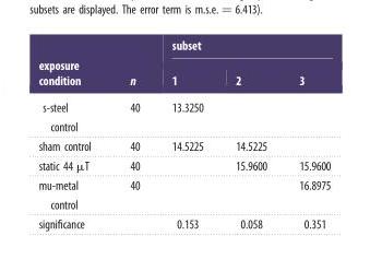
<table><thead><tr><td rowspan="2">exposure condition</td><td rowspan="2">n</td><td colspan="3">subset</td></tr><tr><td>1</td><td>2</td><td>3</td></tr></thead><tbody><tr><td>s-steel control</td><td>40</td><td>13.3250</td><td></td><td></td></tr><tr><td>sham control</td><td>40</td><td>14.5225</td><td>14.5225</td><td></td></tr><tr><td>static 44 µT</td><td>40</td><td></td><td>15.9600</td><td>15.9600</td></tr><tr><td>mu-metal control</td><td>40</td><td></td><td></td><td>16.8975</td></tr><tr><td>significance</td><td></td><td>0.153</td><td>0.058</td><td>0.351</td></tr></tbody></table>